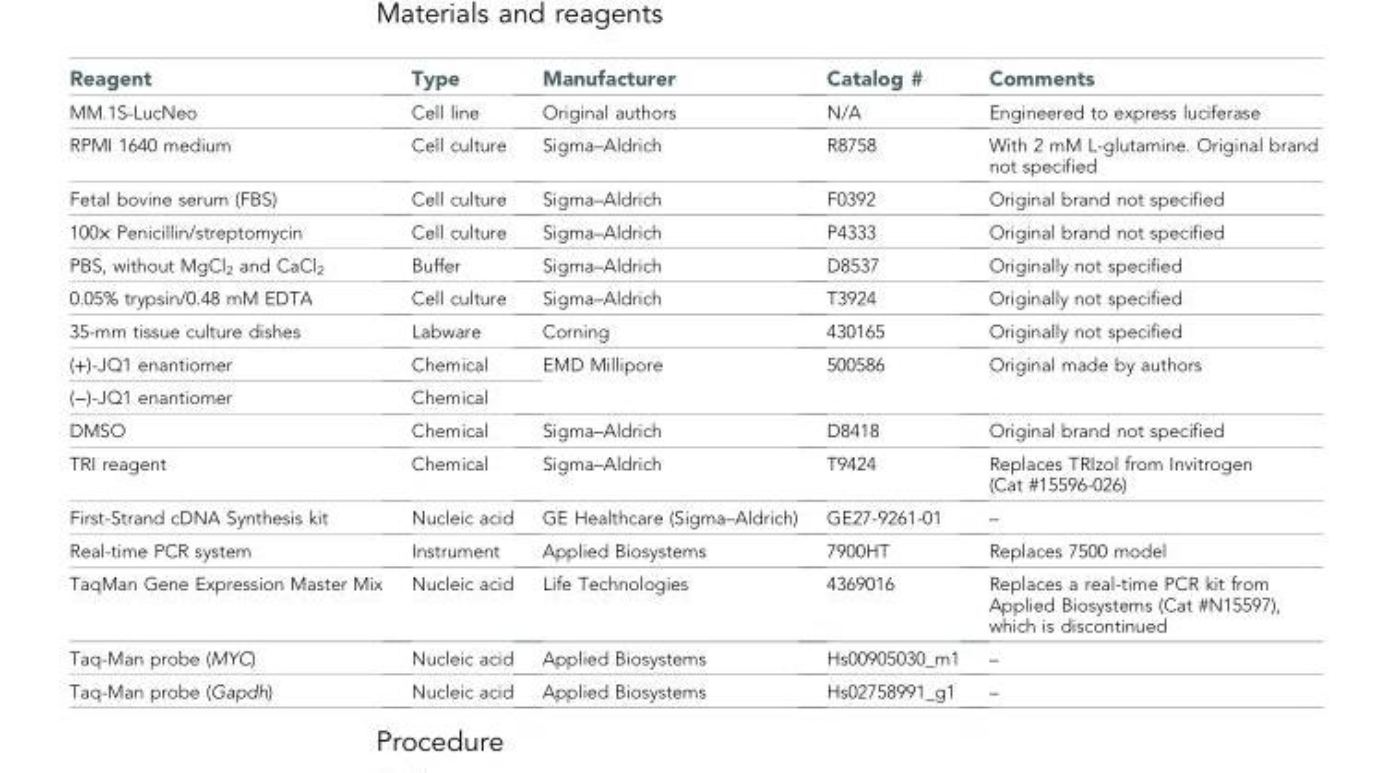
<table><thead><tr><td>Reagent</td><td>Type</td><td>Manufacturer</td><td>Catalog #</td><td>Comments</td></tr></thead><tbody><tr><td>MM.1S-LucNeo</td><td>Cell line</td><td>Original authors</td><td>N/A</td><td>Engineered to express luciferase</td></tr><tr><td>RPMI 1640 medium</td><td>Cell culture</td><td>Sigma–Aldrich</td><td>R8758</td><td>With 2 mM L-glutamine. Original brand not specified</td></tr><tr><td>Fetal bovine serum (FBS)</td><td>Cell culture</td><td>Sigma–Aldrich</td><td>F0392</td><td>Original brand not specified</td></tr><tr><td>100× Penicillin/streptomycin</td><td>Cell culture</td><td>Sigma–Aldrich</td><td>P4333</td><td>Original brand not specified</td></tr><tr><td>PBS, without MgCl<sub>2</sub> and CaCl<sub>2</sub></td><td>Buffer</td><td>Sigma–Aldrich</td><td>D8537</td><td>Originally not specified</td></tr><tr><td>0.05% trypsin/0.48 mM EDTA</td><td>Cell culture</td><td>Sigma–Aldrich</td><td>T3924</td><td>Originally not specified</td></tr><tr><td>35-mm tissue culture dishes</td><td>Labware</td><td>Corning</td><td>430165</td><td>Originally not specified</td></tr><tr><td>(+)-JQ1 enantiomer</td><td>Chemical</td><td rowspan="2">EMD Millipore</td><td rowspan="2">500586</td><td rowspan="2">Original made by authors</td></tr><tr><td>(−)-JQ1 enantiomer</td><td>Chemical</td></tr><tr><td>DMSO</td><td>Chemical</td><td>Sigma–Aldrich</td><td>D8418</td><td>Original brand not specified</td></tr><tr><td>TRI reagent</td><td>Chemical</td><td>Sigma–Aldrich</td><td>T9424</td><td>Replaces TRIzol from Invitrogen (Cat #15596-026)</td></tr><tr><td>First-Strand cDNA Synthesis kit</td><td>Nucleic acid</td><td>GE Healthcare (Sigma–Aldrich)</td><td>GE27-9261-01</td><td>–</td></tr><tr><td>Real-time PCR system</td><td>Instrument</td><td>Applied Biosystems</td><td>7900HT</td><td>Replaces 7500 model</td></tr><tr><td>TaqMan Gene Expression Master Mix</td><td>Nucleic acid</td><td>Life Technologies</td><td>4369016</td><td>Replaces a real-time PCR kit from Applied Biosystems (Cat #N15597), which is discontinued</td></tr><tr><td>Taq-Man probe (MYC)</td><td>Nucleic acid</td><td>Applied Biosystems</td><td>Hs00905030_m1</td><td>–</td></tr><tr><td>Taq-Man probe (Gapdh)</td><td>Nucleic acid</td><td>Applied Biosystems</td><td>Hs02758991_g1</td><td>–</td></tr></tbody></table>